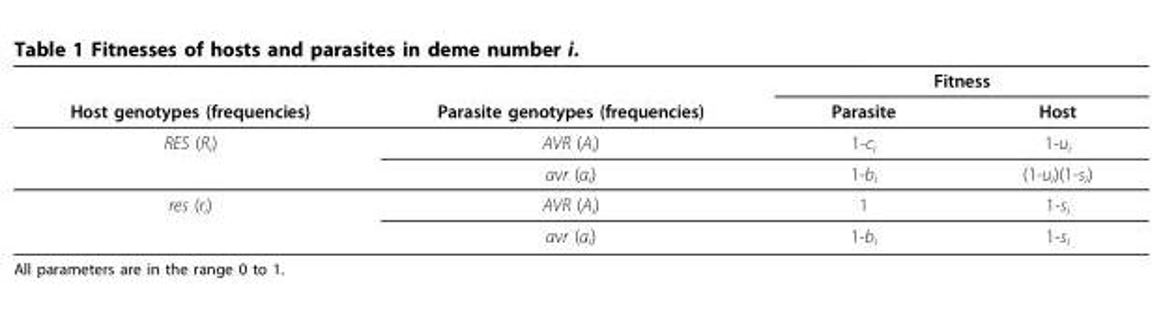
<table><thead><tr><td rowspan="2">Host genotypes (frequencies)</td><td rowspan="2">Parasite genotypes (frequencies)</td><td colspan="2">Fitness</td></tr><tr><td>Parasite</td><td>Host</td></tr></thead><tbody><tr><td rowspan="2">RES (R<sub>i</sub>)</td><td>AVR (A<sub>i</sub>)</td><td>1-c<sub>i</sub></td><td>1-u<sub>i</sub></td></tr><tr><td>avr (a<sub>i</sub>)</td><td>1-b<sub>i</sub></td><td>(1-u<sub>i</sub>)(1-s<sub>i</sub>)</td></tr><tr><td rowspan="2">res (r<sub>i</sub>)</td><td>AVR (A<sub>i</sub>)</td><td>1</td><td>1-s<sub>i</sub></td></tr><tr><td>avr (a<sub>i</sub>)</td><td>1-b<sub>i</sub></td><td>1-s<sub>i</sub></td></tr></tbody></table>